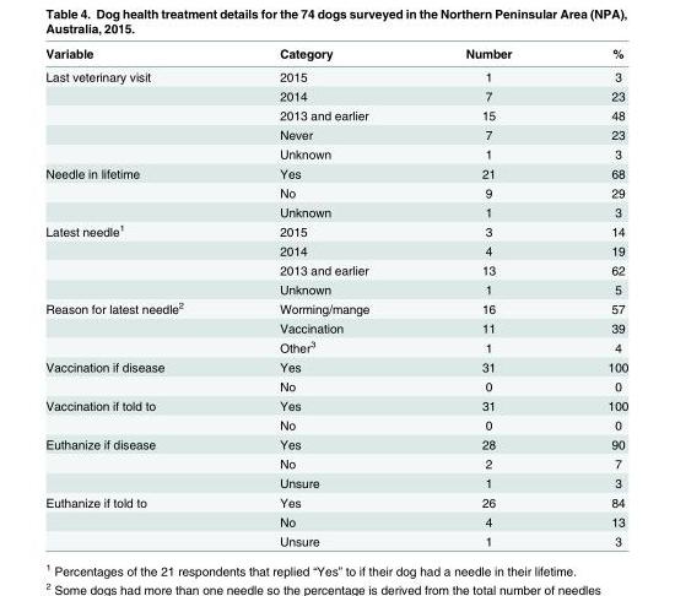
<table><thead><tr><td>Variable</td><td>Category</td><td>Number</td><td>%</td></tr></thead><tbody><tr><td rowspan="5">Last veterinary visit</td><td>2015</td><td>1</td><td>3</td></tr><tr><td>2014</td><td>7</td><td>23</td></tr><tr><td>2013 and earlier</td><td>15</td><td>48</td></tr><tr><td>Never</td><td>7</td><td>23</td></tr><tr><td>Unknown</td><td>1</td><td>3</td></tr><tr><td rowspan="3">Needle in lifetime</td><td>Yes</td><td>21</td><td>68</td></tr><tr><td>No</td><td>9</td><td>29</td></tr><tr><td>Unknown</td><td>1</td><td>3</td></tr><tr><td rowspan="4">Latest needle<sup>1</sup></td><td>2015</td><td>3</td><td>14</td></tr><tr><td>2014</td><td>4</td><td>19</td></tr><tr><td>2013 and earlier</td><td>13</td><td>62</td></tr><tr><td>Unknown</td><td>1</td><td>5</td></tr><tr><td rowspan="3">Reason for latest needle<sup>2</sup></td><td>Worming/mange</td><td>16</td><td>57</td></tr><tr><td>Vaccination</td><td>11</td><td>39</td></tr><tr><td>Other<sup>3</sup></td><td>1</td><td>4</td></tr><tr><td rowspan="2">Vaccination if disease</td><td>Yes</td><td>31</td><td>100</td></tr><tr><td>No</td><td>0</td><td>0</td></tr><tr><td rowspan="2">Vaccination if told to</td><td>Yes</td><td>31</td><td>100</td></tr><tr><td>No</td><td>0</td><td>0</td></tr><tr><td rowspan="3">Euthanize if disease</td><td>Yes</td><td>28</td><td>90</td></tr><tr><td>No</td><td>2</td><td>7</td></tr><tr><td>Unsure</td><td>1</td><td>3</td></tr><tr><td rowspan="3">Euthanize if told to</td><td>Yes</td><td>26</td><td>84</td></tr><tr><td>No</td><td>4</td><td>13</td></tr><tr><td>Unsure</td><td>1</td><td>3</td></tr></tbody></table>